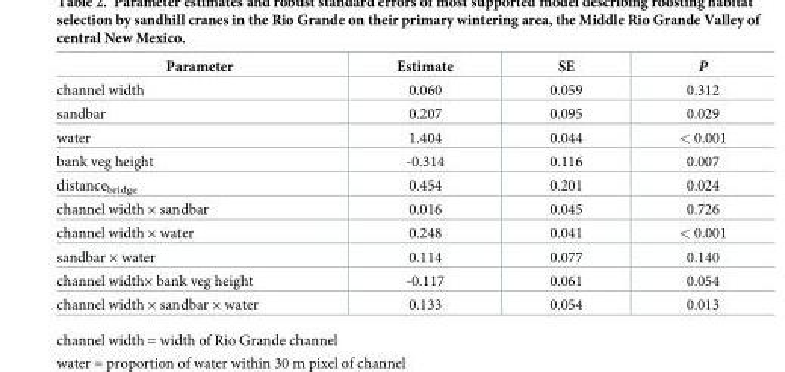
<table><thead><tr><td>Parameter</td><td>Estimate</td><td>SE</td><td>P</td></tr></thead><tbody><tr><td>channel width</td><td>0.060</td><td>0.059</td><td>0.312</td></tr><tr><td>sandbar</td><td>0.207</td><td>0.095</td><td>0.029</td></tr><tr><td>water</td><td>1.404</td><td>0.044</td><td>&lt; 0.001</td></tr><tr><td>bank veg height</td><td>-0.314</td><td>0.116</td><td>0.007</td></tr><tr><td>distance<sub>bridge</sub></td><td>0.454</td><td>0.201</td><td>0.024</td></tr><tr><td>channel width × sandbar</td><td>0.016</td><td>0.045</td><td>0.726</td></tr><tr><td>channel width × water</td><td>0.248</td><td>0.041</td><td>&lt; 0.001</td></tr><tr><td>sandbar × water</td><td>0.114</td><td>0.077</td><td>0.140</td></tr><tr><td>channel width× bank veg height</td><td>-0.117</td><td>0.061</td><td>0.054</td></tr><tr><td>channel width × sandbar × water</td><td>0.133</td><td>0.054</td><td>0.013</td></tr></tbody></table>